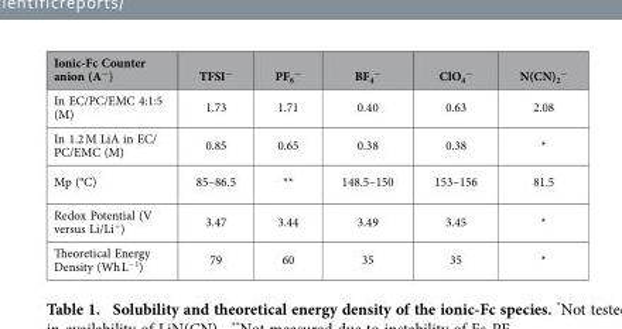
<table><thead><tr><td>Ionic-Fc Counter anion (A<sup>−</sup>)</td><td>TFSI<sup>−</sup></td><td>PF<sub>6</sub> <sup>−</sup></td><td>BF<sub>4</sub> <sup>−</sup></td><td>ClO<sub>4</sub> <sup>−</sup></td><td>N(CN)<sub>2</sub> <sup>−</sup></td></tr></thead><tbody><tr><td>In EC/PC/EMC 4:1:5 (M)</td><td>1.73</td><td>1.71</td><td>0.40</td><td>0.63</td><td>2.08</td></tr><tr><td>In 1.2 M LiA in EC/ PC/EMC (M)</td><td>0.85</td><td>0.65</td><td>0.38</td><td>0.38</td><td>*</td></tr><tr><td>Mp (°C)</td><td>85–86.5</td><td>**</td><td>148.5–150</td><td>153–156</td><td>81.5</td></tr><tr><td>Redox Potential (V versus Li/Li<sup>+</sup>)</td><td>3.47</td><td>3.44</td><td>3.49</td><td>3.45</td><td>*</td></tr><tr><td>Theoretical Energy Density (Wh L<sup>−1</sup>)</td><td>79</td><td>60</td><td>35</td><td>35</td><td>*</td></tr></tbody></table>